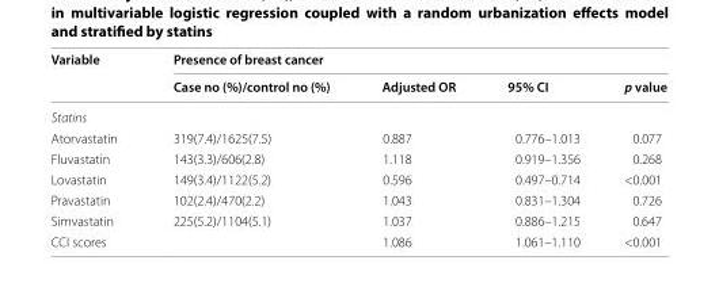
<table><thead><tr><td rowspan="2">Variable</td><td colspan="4">Presence of breast cancer</td></tr><tr><td>Case no (%)/control no (%)</td><td>Adjusted OR</td><td>95% CI</td><td>p value</td></tr></thead><tbody><tr><td colspan="5">Statins</td></tr><tr><td>Atorvastatin</td><td>319(7.4)/1625(7.5)</td><td>0.887</td><td>0.776–1.013</td><td>0.077</td></tr><tr><td>Fluvastatin</td><td>143(3.3)/606(2.8)</td><td>1.118</td><td>0.919–1.356</td><td>0.268</td></tr><tr><td>Lovastatin</td><td>149(3.4)/1122(5.2)</td><td>0.596</td><td>0.497–0.714</td><td>&lt;0.001</td></tr><tr><td>Pravastatin</td><td>102(2.4)/470(2.2)</td><td>1.043</td><td>0.831–1.304</td><td>0.726</td></tr><tr><td>Simvastatin</td><td>225(5.2)/1104(5.1)</td><td>1.037</td><td>0.886–1.215</td><td>0.647</td></tr><tr><td>CCI scores</td><td></td><td>1.086</td><td>1.061–1.110</td><td>&lt;0.001</td></tr></tbody></table>